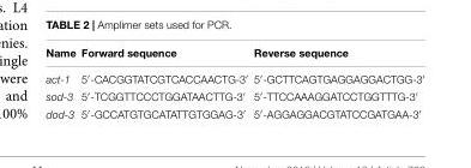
<table><thead><tr><td>Name</td><td>Forward sequence</td><td>Reverse sequence</td></tr></thead><tbody><tr><td>act-1</td><td>5′-CACGGTATCGTCACCAACTG-3′</td><td>5′-GCTTCAGTGAGGAGGACTGG-3′</td></tr><tr><td>sod-3</td><td>5′-TCGGTTCCCTGGATAACTTG-3′</td><td>5′-TTCCAAAGGATCCTGGTTTG-3′</td></tr><tr><td>dod-3</td><td>5′-GCCATGTGCATATTGTGGAG-3′</td><td>5′-AGGAGGACGTATCCGATGAA-3′</td></tr></tbody></table>